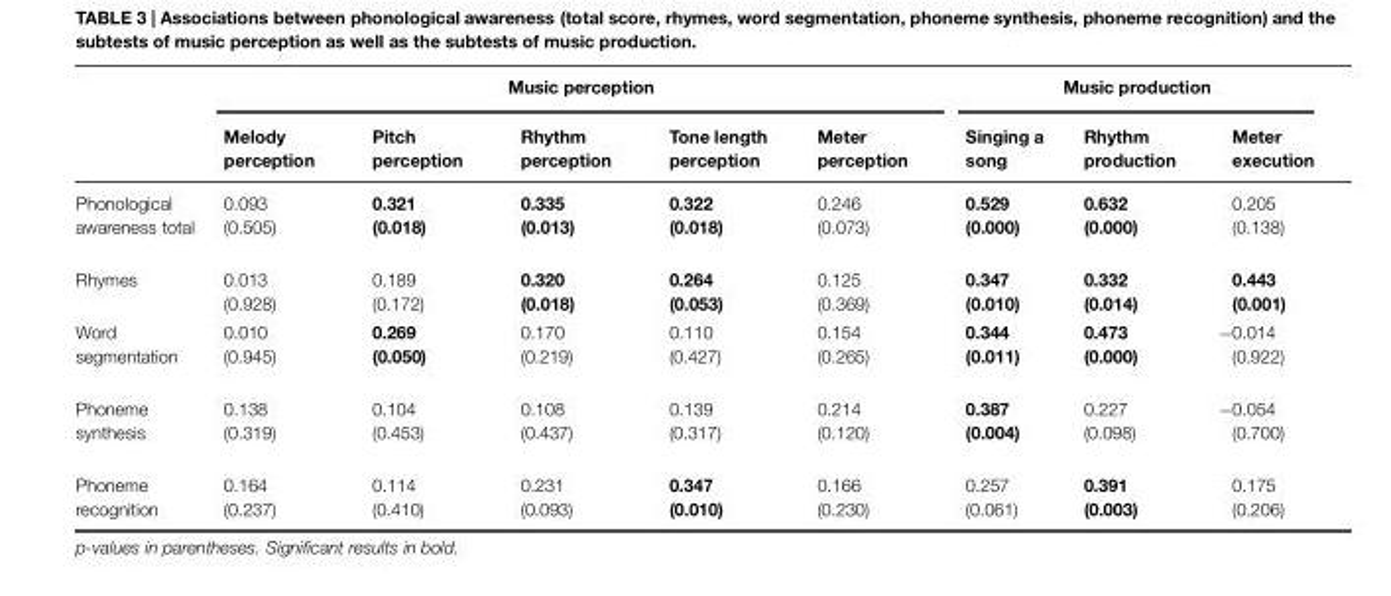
<table><thead><tr><td rowspan="2"></td><td colspan="5">Music perception</td><td colspan="3">Music production</td></tr><tr><td>Melody perception</td><td>Pitch perception</td><td>Rhythm perception</td><td>Tone length perception</td><td>Meter perception</td><td>Singing a song</td><td>Rhythm production</td><td>Meter execution</td></tr></thead><tbody><tr><td>Phonological awareness total</td><td>0.093 (0.505)</td><td>0.321 (0.018)</td><td>0.335 (0.013)</td><td>0.322 (0.018)</td><td>0.246 (0.073)</td><td>0.529 (0.000)</td><td>0.632 (0.000)</td><td>0.205 (0.138)</td></tr><tr><td>Rhymes</td><td>0.013 (0.928)</td><td>0.189 (0.172)</td><td>0.320 (0.018)</td><td>0.264 (0.053)</td><td>0.125 (0.369)</td><td>0.347 (0.010)</td><td>0.332 (0.014)</td><td>0.443 (0.001)</td></tr><tr><td>Word segmentation</td><td>0.010 (0.945)</td><td>0.269 (0.050)</td><td>0.170 (0.219)</td><td>0.110 (0.427)</td><td>0.154 (0.265)</td><td>0.344 (0.011)</td><td>0.473 (0.000)</td><td>−0.014 (0.922)</td></tr><tr><td>Phoneme synthesis</td><td>0.138 (0.319)</td><td>0.104 (0.453)</td><td>0.108 (0.437)</td><td>0.139 (0.317)</td><td>0.214 (0.120)</td><td>0.387 (0.004)</td><td>0.227 (0.098)</td><td>−0.054 (0.700)</td></tr><tr><td>Phoneme recognition</td><td>0.164 (0.237)</td><td>0.114 (0.410)</td><td>0.231 (0.093)</td><td>0.347 (0.010)</td><td>0.166 (0.230)</td><td>0.257 (0.061)</td><td>0.391 (0.003)</td><td>0.175 (0.206)</td></tr></tbody></table>